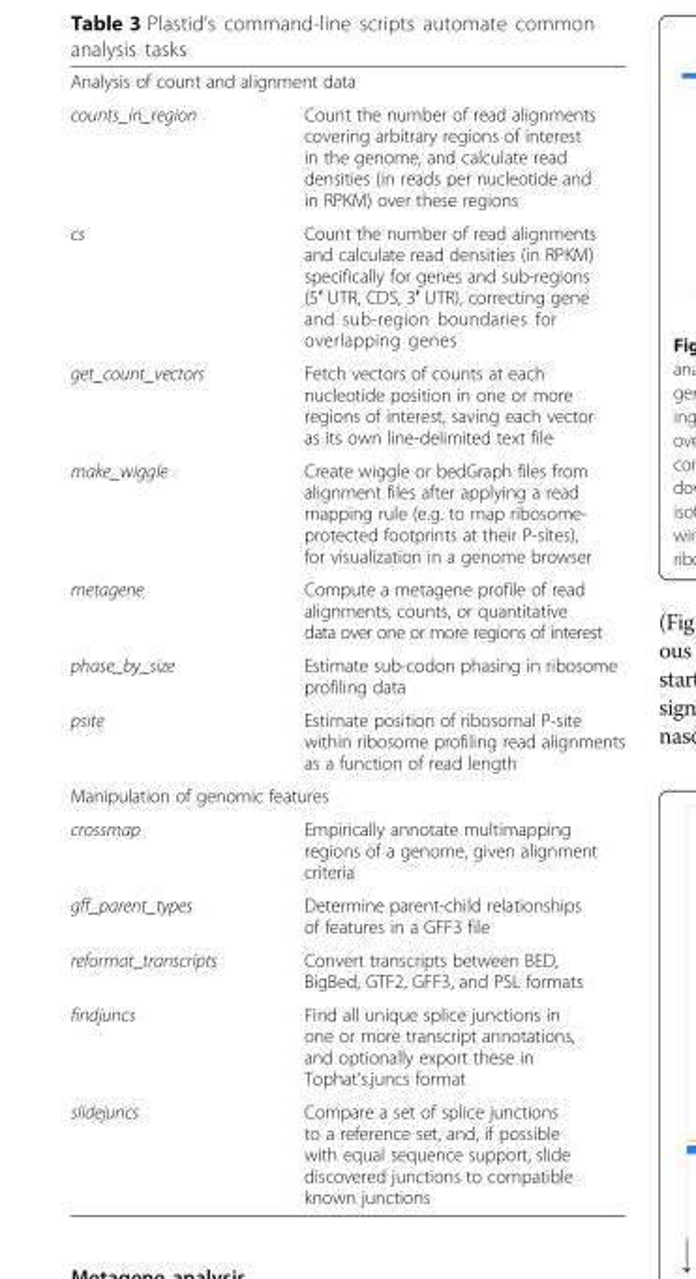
<table><tbody><tr><td colspan="2">Analysis of count and alignment data</td></tr><tr><td>counts_in_region</td><td>Count the number of read alignments covering arbitrary regions of interest in the genome, and calculate read densities (in reads per nucleotide and in RPKM) over these regions</td></tr><tr><td>cs</td><td>Count the number of read alignments and calculate read densities (in RPKM) specifically for genes and sub-regions (5′ UTR, CDS, 3′ UTR), correcting gene and sub-region boundaries for overlapping genes</td></tr><tr><td>get_count_vectors</td><td>Fetch vectors of counts at each nucleotide position in one or more regions of interest, saving each vector as its own line-delimited text file</td></tr><tr><td>make_wiggle</td><td>Create wiggle or bedGraph files from alignment files after applying a read mapping rule (e.g. to map ribosome- protected footprints at their P-sites), for visualization in a genome browser</td></tr><tr><td>metagene</td><td>Compute a metagene profile of read alignments, counts, or quantitative data over one or more regions of interest</td></tr><tr><td>phase_by_size</td><td>Estimate sub-codon phasing in ribosome profiling data</td></tr><tr><td>psite</td><td>Estimate position of ribosomal P-site within ribosome profiling read alignments as a function of read length</td></tr><tr><td colspan="2">Manipulation of genomic features</td></tr><tr><td>crossmap</td><td>Empirically annotate multimapping regions of a genome, given alignment criteria</td></tr><tr><td>gff_parent_types</td><td>Determine parent-child relationships of features in a GFF3 file</td></tr><tr><td>reformat_transcripts</td><td>Convert transcripts between BED, BigBed, GTF2, GFF3, and PSL formats</td></tr><tr><td>findjuncs</td><td>Find all unique splice junctions in one or more transcript annotations, and optionally export these in Tophat’s.juncs format</td></tr><tr><td>slidejuncs</td><td>Compare a set of splice junctions to a reference set, and, if possible with equal sequence support, slide discovered junctions to compatible known junctions</td></tr></tbody></table>